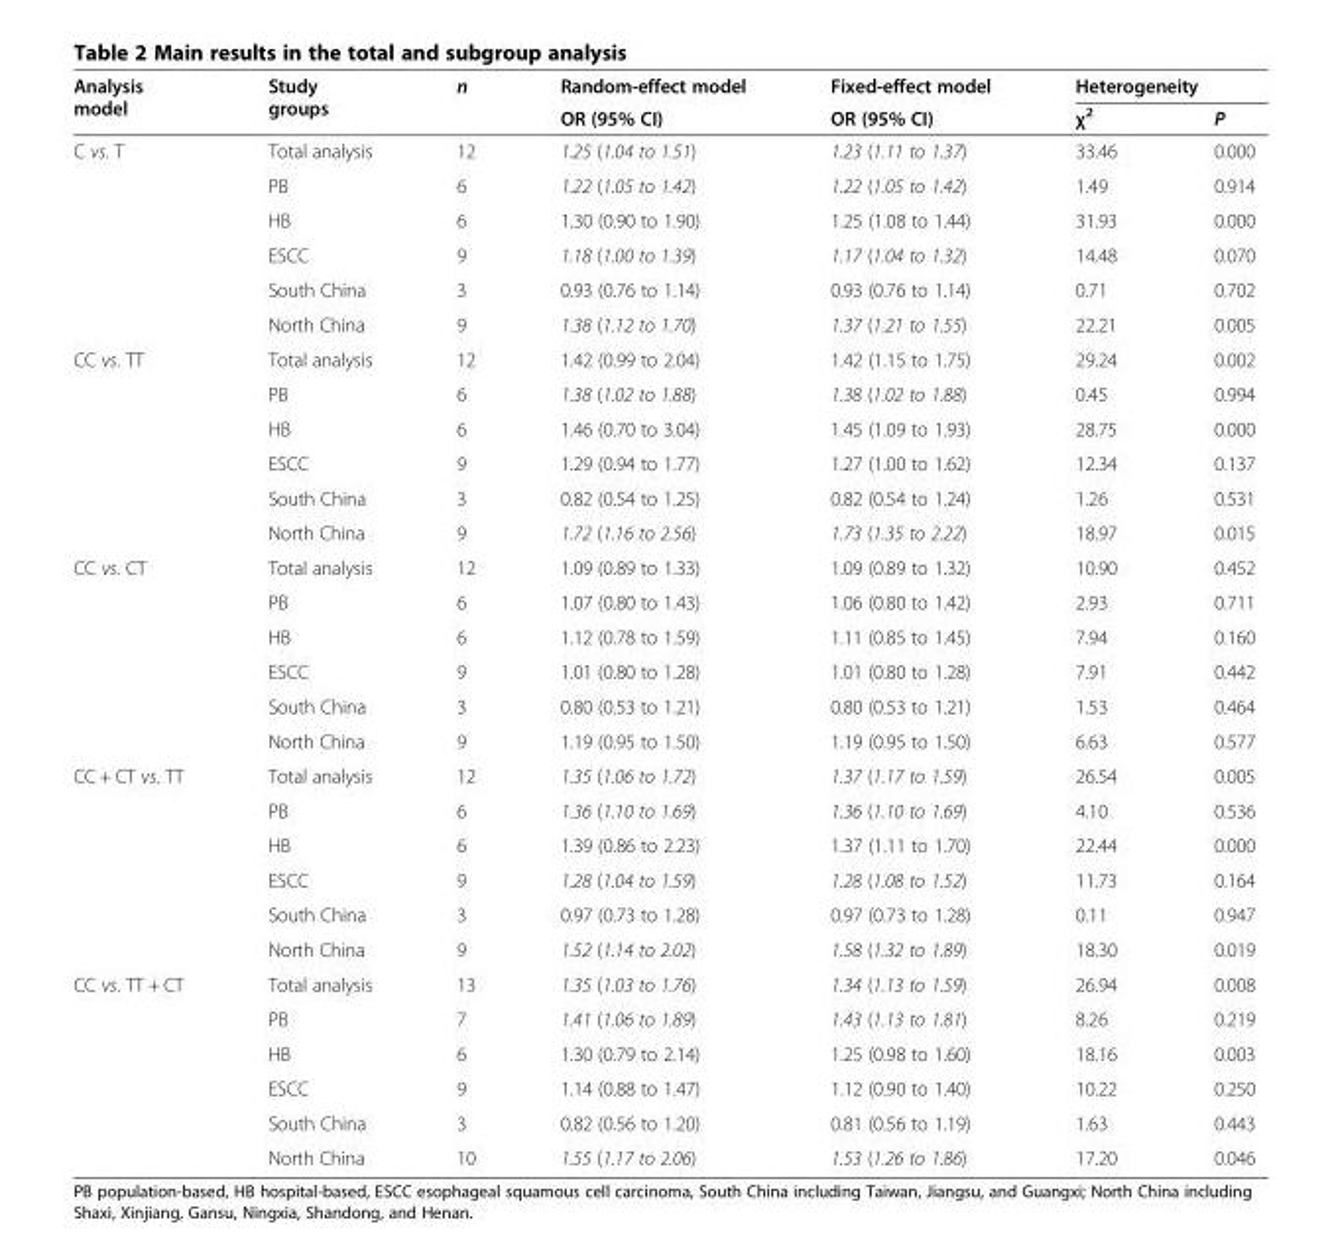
<table><thead><tr><td rowspan="2">Analysis model</td><td rowspan="2">Study groups</td><td rowspan="2">n</td><td rowspan="2">Random-effect model OR (95% CI)</td><td rowspan="2">Fixed-effect model OR (95% CI)</td><td colspan="2">Heterogeneity</td></tr><tr><td>χ<sup>2</sup></td><td>P</td></tr></thead><tbody><tr><td rowspan="6">C vs. T</td><td>Total analysis</td><td>12</td><td>1.25 (1.04 to 1.51)</td><td>1.23 (1.11 to 1.37)</td><td>33.46</td><td>0.000</td></tr><tr><td>PB</td><td>6</td><td>1.22 (1.05 to 1.42)</td><td>1.22 (1.05 to 1.42)</td><td>1.49</td><td>0.914</td></tr><tr><td>HB</td><td>6</td><td>1.30 (0.90 to 1.90)</td><td>1.25 (1.08 to 1.44)</td><td>31.93</td><td>0.000</td></tr><tr><td>ESCC</td><td>9</td><td>1.18 (1.00 to 1.39)</td><td>1.17 (1.04 to 1.32)</td><td>14.48</td><td>0.070</td></tr><tr><td>South China</td><td>3</td><td>0.93 (0.76 to 1.14)</td><td>0.93 (0.76 to 1.14)</td><td>0.71</td><td>0.702</td></tr><tr><td>North China</td><td>9</td><td>1.38 (1.12 to 1.70)</td><td>1.37 (1.21 to 1.55)</td><td>22.21</td><td>0.005</td></tr><tr><td rowspan="6">CC vs. TT</td><td>Total analysis</td><td>12</td><td>1.42 (0.99 to 2.04)</td><td>1.42 (1.15 to 1.75)</td><td>29.24</td><td>0.002</td></tr><tr><td>PB</td><td>6</td><td>1.38 (1.02 to 1.88)</td><td>1.38 (1.02 to 1.88)</td><td>0.45</td><td>0.994</td></tr><tr><td>HB</td><td>6</td><td>1.46 (0.70 to 3.04)</td><td>1.45 (1.09 to 1.93)</td><td>28.75</td><td>0.000</td></tr><tr><td>ESCC</td><td>9</td><td>1.29 (0.94 to 1.77)</td><td>1.27 (1.00 to 1.62)</td><td>12.34</td><td>0.137</td></tr><tr><td>South China</td><td>3</td><td>0.82 (0.54 to 1.25)</td><td>0.82 (0.54 to 1.24)</td><td>1.26</td><td>0.531</td></tr><tr><td>North China</td><td>9</td><td>1.72 (1.16 to 2.56)</td><td>1.73 (1.35 to 2.22)</td><td>18.97</td><td>0.015</td></tr><tr><td rowspan="6">CC vs. CT</td><td>Total analysis</td><td>12</td><td>1.09 (0.89 to 1.33)</td><td>1.09 (0.89 to 1.32)</td><td>10.90</td><td>0.452</td></tr><tr><td>PB</td><td>6</td><td>1.07 (0.80 to 1.43)</td><td>1.06 (0.80 to 1.42)</td><td>2.93</td><td>0.711</td></tr><tr><td>HB</td><td>6</td><td>1.12 (0.78 to 1.59)</td><td>1.11 (0.85 to 1.45)</td><td>7.94</td><td>0.160</td></tr><tr><td>ESCC</td><td>9</td><td>1.01 (0.80 to 1.28)</td><td>1.01 (0.80 to 1.28)</td><td>7.91</td><td>0.442</td></tr><tr><td>South China</td><td>3</td><td>0.80 (0.53 to 1.21)</td><td>0.80 (0.53 to 1.21)</td><td>1.53</td><td>0.464</td></tr><tr><td>North China</td><td>9</td><td>1.19 (0.95 to 1.50)</td><td>1.19 (0.95 to 1.50)</td><td>6.63</td><td>0.577</td></tr><tr><td rowspan="6">CC + CT vs. TT</td><td>Total analysis</td><td>12</td><td>1.35 (1.06 to 1.72)</td><td>1.37 (1.17 to 1.59)</td><td>26.54</td><td>0.005</td></tr><tr><td>PB</td><td>6</td><td>1.36 (1.10 to 1.69)</td><td>1.36 (1.10 to 1.69)</td><td>4.10</td><td>0.536</td></tr><tr><td>HB</td><td>6</td><td>1.39 (0.86 to 2.23)</td><td>1.37 (1.11 to 1.70)</td><td>22.44</td><td>0.000</td></tr><tr><td>ESCC</td><td>9</td><td>1.28 (1.04 to 1.59)</td><td>1.28 (1.08 to 1.52)</td><td>11.73</td><td>0.164</td></tr><tr><td>South China</td><td>3</td><td>0.97 (0.73 to 1.28)</td><td>0.97 (0.73 to 1.28)</td><td>0.11</td><td>0.947</td></tr><tr><td>North China</td><td>9</td><td>1.52 (1.14 to 2.02)</td><td>1.58 (1.32 to 1.89)</td><td>18.30</td><td>0.019</td></tr><tr><td rowspan="6">CC vs. TT + CT</td><td>Total analysis</td><td>13</td><td>1.35 (1.03 to 1.76)</td><td>1.34 (1.13 to 1.59)</td><td>26.94</td><td>0.008</td></tr><tr><td>PB</td><td>7</td><td>1.41 (1.06 to 1.89)</td><td>1.43 (1.13 to 1.81)</td><td>8.26</td><td>0.219</td></tr><tr><td>HB</td><td>6</td><td>1.30 (0.79 to 2.14)</td><td>1.25 (0.98 to 1.60)</td><td>18.16</td><td>0.003</td></tr><tr><td>ESCC</td><td>9</td><td>1.14 (0.88 to 1.47)</td><td>1.12 (0.90 to 1.40)</td><td>10.22</td><td>0.250</td></tr><tr><td>South China</td><td>3</td><td>0.82 (0.56 to 1.20)</td><td>0.81 (0.56 to 1.19)</td><td>1.63</td><td>0.443</td></tr><tr><td>North China</td><td>10</td><td>1.55 (1.17 to 2.06)</td><td>1.53 (1.26 to 1.86)</td><td>17.20</td><td>0.046</td></tr></tbody></table>